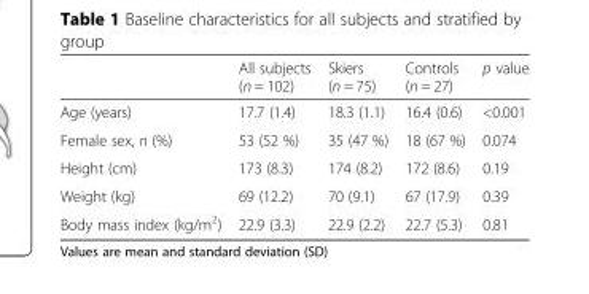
<table><thead><tr><td></td><td>All subjects (n = 102)</td><td>Skiers (n = 75)</td><td>Controls (n = 27)</td><td>p value</td></tr></thead><tbody><tr><td>Age (years)</td><td>17.7 (1.4)</td><td>18.3 (1.1)</td><td>16.4 (0.6)</td><td>&lt;0.001</td></tr><tr><td>Female sex, n (%)</td><td>53 (52 %)</td><td>35 (47 %)</td><td>18 (67 %)</td><td>0.074</td></tr><tr><td>Height (cm)</td><td>173 (8.3)</td><td>174 (8.2)</td><td>172 (8.6)</td><td>0.19</td></tr><tr><td>Weight (kg)</td><td>69 (12.2)</td><td>70 (9.1)</td><td>67 (17.9)</td><td>0.39</td></tr><tr><td>Body mass index (kg/m<sup>2</sup>)</td><td>22.9 (3.3)</td><td>22.9 (2.2)</td><td>22.7 (5.3)</td><td>0.81</td></tr></tbody></table>